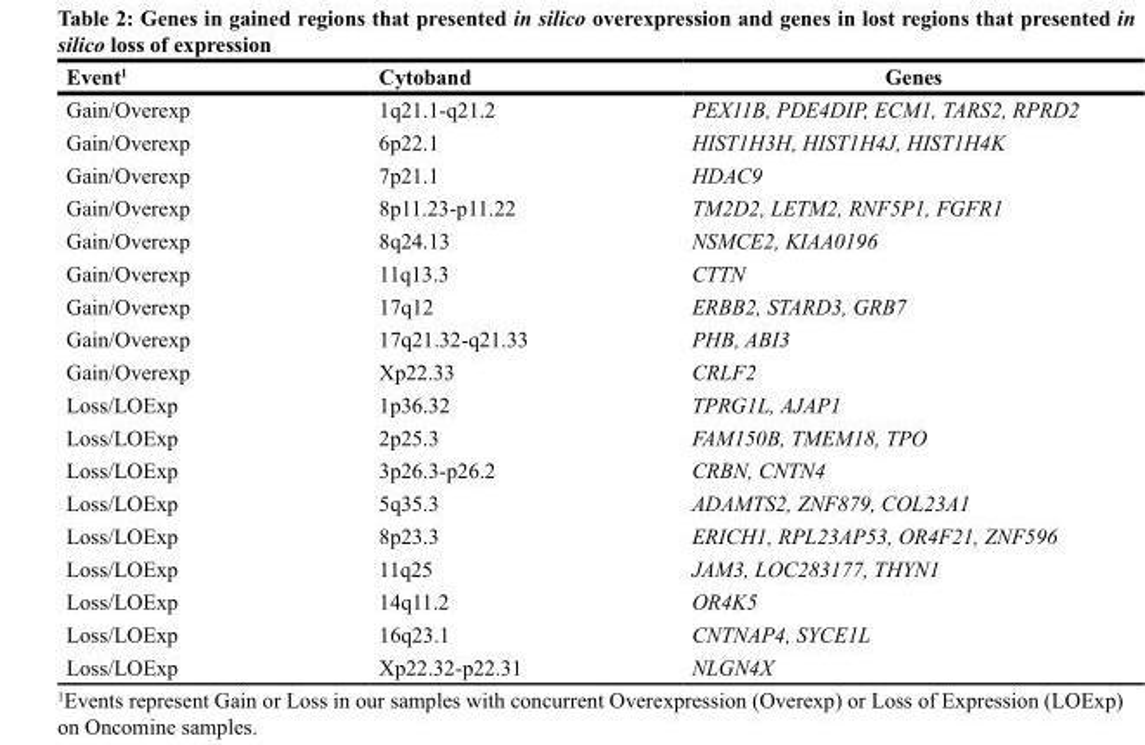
<table><thead><tr><td>Event<sup>1</sup></td><td>Cytoband</td><td>Genes</td></tr></thead><tbody><tr><td>Gain/Overexp</td><td>1q21.1-q21.2</td><td>PEX11B, PDE4DIP, ECM1, TARS2, RPRD2</td></tr><tr><td>Gain/Overexp</td><td>6p22.1</td><td>HIST1H3H, HIST1H4J, HIST1H4K</td></tr><tr><td>Gain/Overexp</td><td>7p21.1</td><td>HDAC9</td></tr><tr><td>Gain/Overexp</td><td>8p11.23-p11.22</td><td>TM2D2, LETM2, RNF5P1, FGFR1</td></tr><tr><td>Gain/Overexp</td><td>8q24.13</td><td>NSMCE2, KIAA0196</td></tr><tr><td>Gain/Overexp</td><td>11q13.3</td><td>CTTN</td></tr><tr><td>Gain/Overexp</td><td>17q12</td><td>ERBB2, STARD3, GRB7</td></tr><tr><td>Gain/Overexp</td><td>17q21.32-q21.33</td><td>PHB, ABI3</td></tr><tr><td>Gain/Overexp</td><td>Xp22.33</td><td>CRLF2</td></tr><tr><td>Loss/LOExp</td><td>1p36.32</td><td>TPRG1L, AJAP1</td></tr><tr><td>Loss/LOExp</td><td>2p25.3</td><td>FAM150B, TMEM18, TPO</td></tr><tr><td>Loss/LOExp</td><td>3p26.3-p26.2</td><td>CRBN, CNTN4</td></tr><tr><td>Loss/LOExp</td><td>5q35.3</td><td>ADAMTS2, ZNF879, COL23A1</td></tr><tr><td>Loss/LOExp</td><td>8p23.3</td><td>ERICH1, RPL23AP53, OR4F21, ZNF596</td></tr><tr><td>Loss/LOExp</td><td>11q25</td><td>JAM3, LOC283177, THYN1</td></tr><tr><td>Loss/LOExp</td><td>14q11.2</td><td>OR4K5</td></tr><tr><td>Loss/LOExp</td><td>16q23.1</td><td>CNTNAP4, SYCE1L</td></tr><tr><td>Loss/LOExp</td><td>Xp22.32-p22.31</td><td>NLGN4X</td></tr></tbody></table>